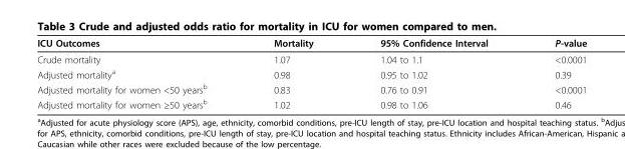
<table><thead><tr><td>ICU Outcomes</td><td>Mortality</td><td>95% Confidence Interval</td><td>P-value</td></tr></thead><tbody><tr><td>Crude mortality</td><td>1.07</td><td>1.04 to 1.1</td><td>&lt;0.0001</td></tr><tr><td>Adjusted mortality<sup>a</sup></td><td>0.98</td><td>0.95 to 1.02</td><td>0.39</td></tr><tr><td>Adjusted mortality for women &lt;50 years<sup>b</sup></td><td>0.83</td><td>0.76 to 0.91</td><td>&lt;0.0001</td></tr><tr><td>Adjusted mortality for women ≥50 years<sup>b</sup></td><td>1.02</td><td>0.98 to 1.06</td><td>0.46</td></tr></tbody></table>